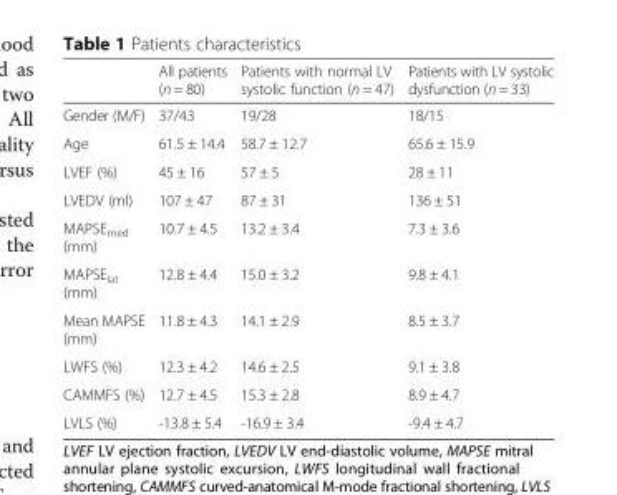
<table><thead><tr><td></td><td>All patients (n = 80)</td><td>Patients with normal LV systolic function (n = 47)</td><td>Patients with LV systolic dysfunction (n = 33)</td></tr></thead><tbody><tr><td>Gender (M/F)</td><td>37/43</td><td>19/28</td><td>18/15</td></tr><tr><td>Age</td><td>61.5 ± 14.4</td><td>58.7 ± 12.7</td><td>65.6 ± 15.9</td></tr><tr><td>LVEF (%)</td><td>45 ± 16</td><td>57 ± 5</td><td>28 ± 11</td></tr><tr><td>LVEDV (ml)</td><td>107 ± 47</td><td>87 ± 31</td><td>136 ± 51</td></tr><tr><td>MAPSE<sub>med</sub> (mm)</td><td>10.7 ± 4.5</td><td>13.2 ± 3.4</td><td>7.3 ± 3.6</td></tr><tr><td>MAPSE<sub>lat</sub> (mm)</td><td>12.8 ± 4.4</td><td>15.0 ± 3.2</td><td>9.8 ± 4.1</td></tr><tr><td>Mean MAPSE (mm)</td><td>11.8 ± 4.3</td><td>14.1 ± 2.9</td><td>8.5 ± 3.7</td></tr><tr><td>LWFS (%)</td><td>12.3 ± 4.2</td><td>14.6 ± 2.5</td><td>9.1 ± 3.8</td></tr><tr><td>CAMMFS (%)</td><td>12.7 ± 4.5</td><td>15.3 ± 2.8</td><td>8.9 ± 4.7</td></tr><tr><td>LVLS (%)</td><td>-13.8 ± 5.4</td><td>-16.9 ± 3.4</td><td>-9.4 ± 4.7</td></tr></tbody></table>